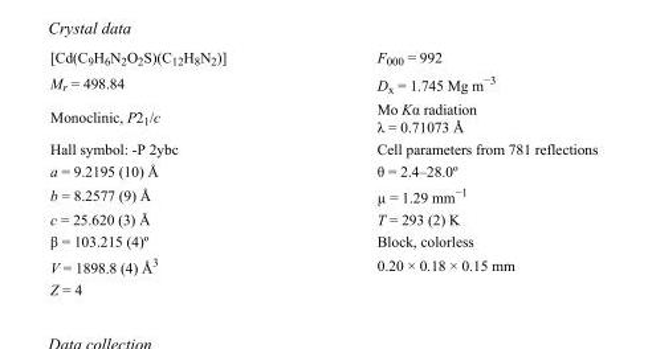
<table><tbody><tr><td>[Cd(C<sub>9</sub>H<sub>6</sub>N<sub>2</sub>O<sub>2</sub>S)(C<sub>12</sub>H<sub>8</sub>N<sub>2</sub>)]</td><td>F000 = 992</td></tr><tr><td>M<sub>r</sub> = 498.84</td><td>D<sub>x</sub> = 1.745 Mg m<sup>−3</sup></td></tr><tr><td>Monoclinic, P2<sub>1</sub>/c</td><td>Mo Kα radiation λ = 0.71073 Å</td></tr><tr><td>Hall symbol: -P 2ybc</td><td>Cell parameters from 781 reflections</td></tr><tr><td>a = 9.2195 (10) Å</td><td>θ = 2.4–28.0º</td></tr><tr><td>b = 8.2577 (9) Å</td><td>µ = 1.29 mm<sup>−1</sup></td></tr><tr><td>c = 25.620 (3) Å</td><td>T = 293 (2) K</td></tr><tr><td>β = 103.215 (4)º</td><td>Block, colorless</td></tr><tr><td>V = 1898.8 (4) Å<sup>3</sup></td><td>0.20 × 0.18 × 0.15 mm</td></tr><tr><td>Z = 4</td><td></td></tr></tbody></table>